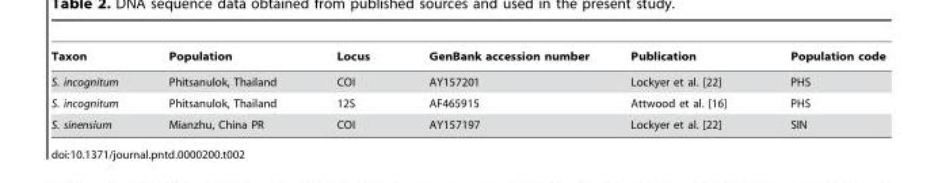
<table><thead><tr><td>Taxon</td><td>Population</td><td>Locus</td><td>GenBank accession number</td><td>Publication</td><td>Population code</td></tr></thead><tbody><tr><td>S. incognitum</td><td>Phitsanulok, Thailand</td><td>COI</td><td>AY157201</td><td>Lockyer et al. [22]</td><td>PHS</td></tr><tr><td>S. incognitum</td><td>Phitsanulok, Thailand</td><td>12S</td><td>AF465915</td><td>Attwood et al. [16]</td><td>PHS</td></tr><tr><td>S. sinensium</td><td>Mianzhu, China PR</td><td>COI</td><td>AY157197</td><td>Lockyer et al. [22]</td><td>SIN</td></tr></tbody></table>